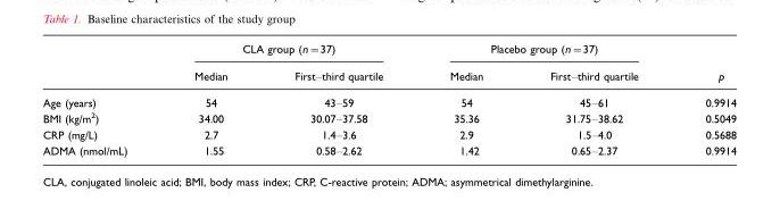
<table><thead><tr><td rowspan="2"></td><td colspan="2">CLA group (n=37)</td><td colspan="2">Placebo group (n=37)</td><td rowspan="2">p</td></tr><tr><td>Median</td><td>First–third quartile</td><td>Median</td><td>First–third quartile</td></tr></thead><tbody><tr><td>Age (years)</td><td>54</td><td>43–59</td><td>54</td><td>45–61</td><td>0.9914</td></tr><tr><td>BMI (kg/m<sup>2</sup>)</td><td>34.00</td><td>30.07–37.58</td><td>35.36</td><td>31.75–38.62</td><td>0.5049</td></tr><tr><td>CRP (mg/L)</td><td>2.7</td><td>1.4–3.6</td><td>2.9</td><td>1.5–4.0</td><td>0.5688</td></tr><tr><td>ADMA (nmol/mL)</td><td>1.55</td><td>0.58–2.62</td><td>1.42</td><td>0.65–2.37</td><td>0.9914</td></tr></tbody></table>